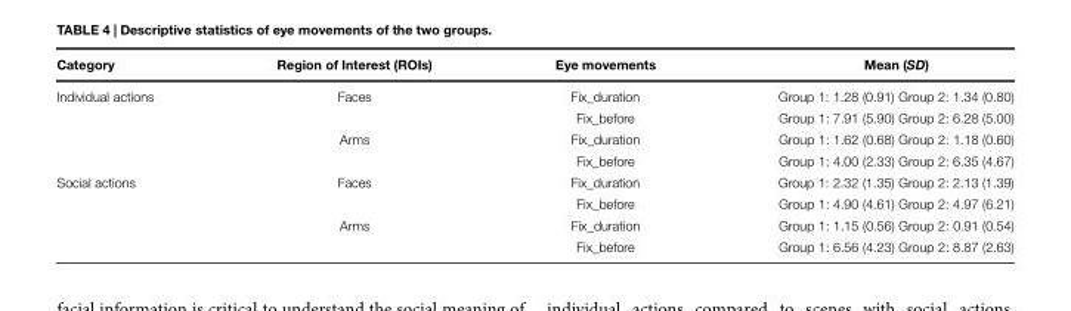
<table><thead><tr><td>Category</td><td>Region of Interest (ROIs)</td><td>Eye movements</td><td>Mean (SD)</td></tr></thead><tbody><tr><td rowspan="4">Individual actions</td><td>Faces</td><td>Fix_duration</td><td>Group 1: 1.28 (0.91) Group 2: 1.34 (0.80)</td></tr><tr><td></td><td>Fix_before</td><td>Group 1: 7.91 (5.90) Group 2: 6.28 (5.00)</td></tr><tr><td>Arms</td><td>Fix_duration</td><td>Group 1: 1.62 (0.68) Group 2: 1.18 (0.60)</td></tr><tr><td></td><td>Fix_before</td><td>Group 1: 4.00 (2.33) Group 2: 6.35 (4.67)</td></tr><tr><td rowspan="4">Social actions</td><td>Faces</td><td>Fix_duration</td><td>Group 1: 2.32 (1.35) Group 2: 2.13 (1.39)</td></tr><tr><td></td><td>Fix_before</td><td>Group 1: 4.90 (4.61) Group 2: 4.97 (6.21)</td></tr><tr><td>Arms</td><td>Fix_duration</td><td>Group 1: 1.15 (0.56) Group 2: 0.91 (0.54)</td></tr><tr><td></td><td>Fix_before</td><td>Group 1: 6.56 (4.23) Group 2: 8.87 (2.63)</td></tr></tbody></table>